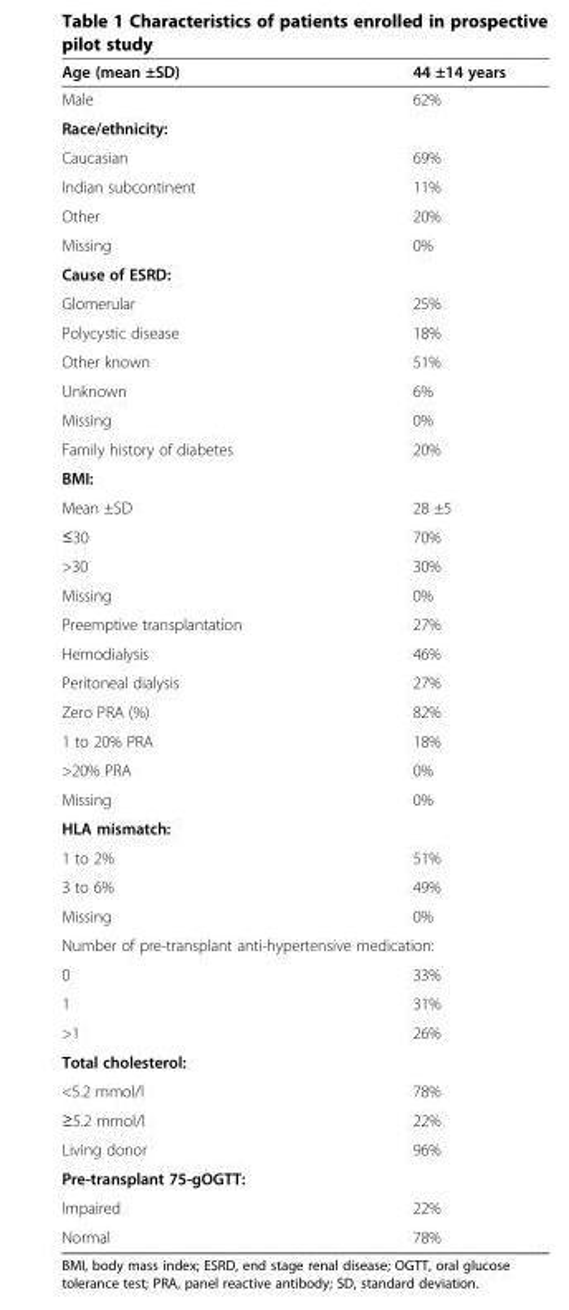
<table><thead><tr><td>Age (mean ±SD)</td><td>44 ±14 years</td></tr></thead><tbody><tr><td>Male</td><td>62%</td></tr><tr><td colspan="2">Race/ethnicity:</td></tr><tr><td>Caucasian</td><td>69%</td></tr><tr><td>Indian subcontinent</td><td>11%</td></tr><tr><td>Other</td><td>20%</td></tr><tr><td>Missing</td><td>0%</td></tr><tr><td colspan="2">Cause of ESRD:</td></tr><tr><td>Glomerular</td><td>25%</td></tr><tr><td>Polycystic disease</td><td>18%</td></tr><tr><td>Other known</td><td>51%</td></tr><tr><td>Unknown</td><td>6%</td></tr><tr><td>Missing</td><td>0%</td></tr><tr><td>Family history of diabetes</td><td>20%</td></tr><tr><td colspan="2">BMI:</td></tr><tr><td>Mean ±SD</td><td>28 ±5</td></tr><tr><td>≤30</td><td>70%</td></tr><tr><td>&gt;30</td><td>30%</td></tr><tr><td>Missing</td><td>0%</td></tr><tr><td>Preemptive transplantation</td><td>27%</td></tr><tr><td>Hemodialysis</td><td>46%</td></tr><tr><td>Peritoneal dialysis</td><td>27%</td></tr><tr><td>Zero PRA (%)</td><td>82%</td></tr><tr><td>1 to 20% PRA</td><td>18%</td></tr><tr><td>&gt;20% PRA</td><td>0%</td></tr><tr><td>Missing</td><td>0%</td></tr><tr><td colspan="2">HLA mismatch:</td></tr><tr><td>1 to 2%</td><td>51%</td></tr><tr><td>3 to 6%</td><td>49%</td></tr><tr><td>Missing</td><td>0%</td></tr><tr><td colspan="2">Number of pre-transplant anti-hypertensive medication:</td></tr><tr><td>0</td><td>33%</td></tr><tr><td>1</td><td>31%</td></tr><tr><td>&gt;1</td><td>26%</td></tr><tr><td colspan="2">Total cholesterol:</td></tr><tr><td>&lt;5.2 mmol/l</td><td>78%</td></tr><tr><td>≥5.2 mmol/l</td><td>22%</td></tr><tr><td>Living donor</td><td>96%</td></tr><tr><td colspan="2">Pre-transplant 75-gOGTT:</td></tr><tr><td>Impaired</td><td>22%</td></tr><tr><td>Normal</td><td>78%</td></tr></tbody></table>